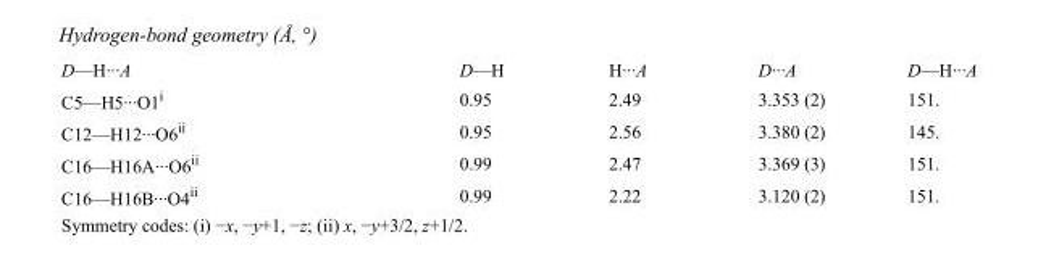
<table><tbody><tr><td>D—H···A</td><td>D—H</td><td>H···A</td><td>D···A</td><td>D—H···A</td></tr><tr><td>C5—H5···O1<sup>i</sup></td><td>0.95</td><td>2.49</td><td>3.353 (2)</td><td>151.</td></tr><tr><td>C12—H12···O6<sup>ii</sup></td><td>0.95</td><td>2.56</td><td>3.380 (2)</td><td>145.</td></tr><tr><td>C16—H16A···O6<sup>ii</sup></td><td>0.99</td><td>2.47</td><td>3.369 (3)</td><td>151.</td></tr><tr><td>C16—H16B···O4<sup>ii</sup></td><td>0.99</td><td>2.22</td><td>3.120 (2)</td><td>151.</td></tr></tbody></table>